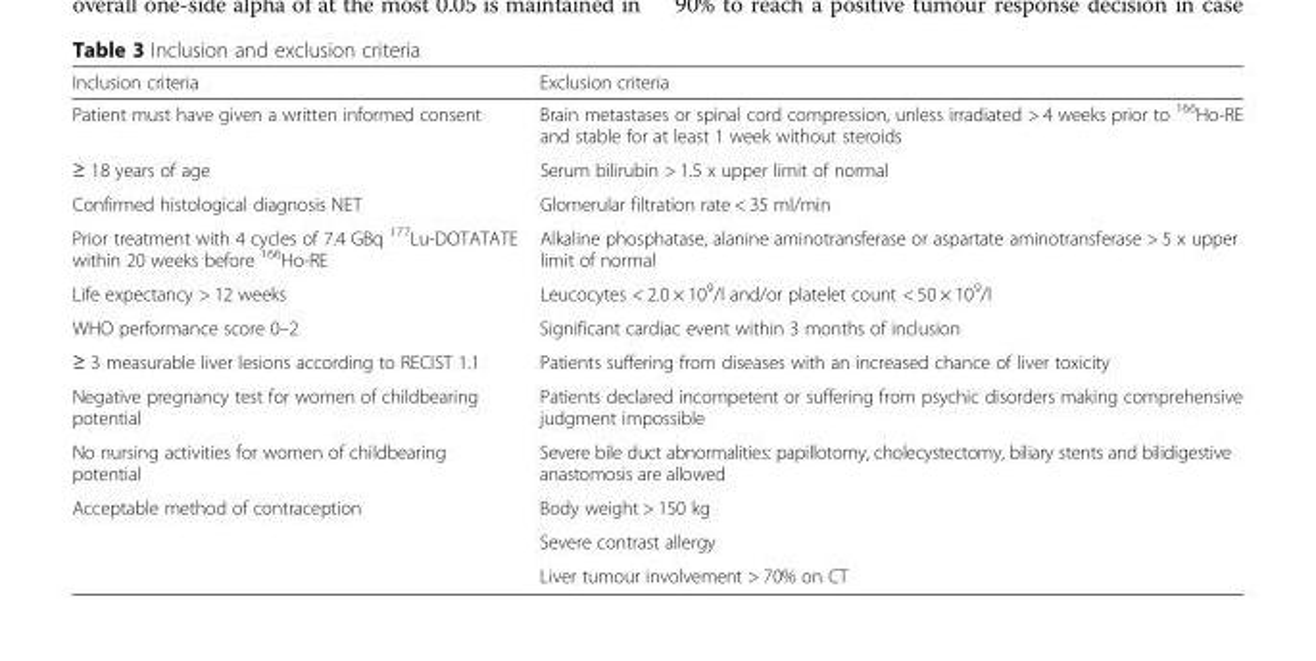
<table><thead><tr><td>Inclusion criteria</td><td>Exclusion criteria</td></tr></thead><tbody><tr><td>Patient must have given a written informed consent</td><td>Brain metastases or spinal cord compression, unless irradiated &gt; 4 weeks prior to <sup>166</sup>Ho-RE and stable for at least 1 week without steroids</td></tr><tr><td>≥ 18 years of age</td><td>Serum bilirubin &gt; 1.5 x upper limit of normal</td></tr><tr><td>Confirmed histological diagnosis NET</td><td>Glomerular filtration rate &lt; 35 ml/min</td></tr><tr><td>Prior treatment with 4 cycles of 7.4 GBq <sup>177</sup>Lu-DOTATATE within 20 weeks before <sup>166</sup>Ho-RE</td><td>Alkaline phosphatase, alanine aminotransferase or aspartate aminotransferase &gt; 5 x upper limit of normal</td></tr><tr><td>Life expectancy &gt; 12 weeks</td><td>Leucocytes &lt; 2.0 × 10<sup>9</sup>/l and/or platelet count &lt; 50 × 10<sup>9</sup>/l</td></tr><tr><td>WHO performance score 0–2</td><td>Significant cardiac event within 3 months of inclusion</td></tr><tr><td>≥ 3 measurable liver lesions according to RECIST 1.1</td><td>Patients suffering from diseases with an increased chance of liver toxicity</td></tr><tr><td>Negative pregnancy test for women of childbearing potential</td><td>Patients declared incompetent or suffering from psychic disorders making comprehensive judgment impossible</td></tr><tr><td>No nursing activities for women of childbearing potential</td><td>Severe bile duct abnormalities: papillotomy, cholecystectomy, biliary stents and bilidigestive anastomosis are allowed</td></tr><tr><td rowspan="3">Acceptable method of contraception</td><td>Body weight &gt; 150 kg</td></tr><tr><td>Severe contrast allergy</td></tr><tr><td>Liver tumour involvement &gt; 70% on CT</td></tr></tbody></table>